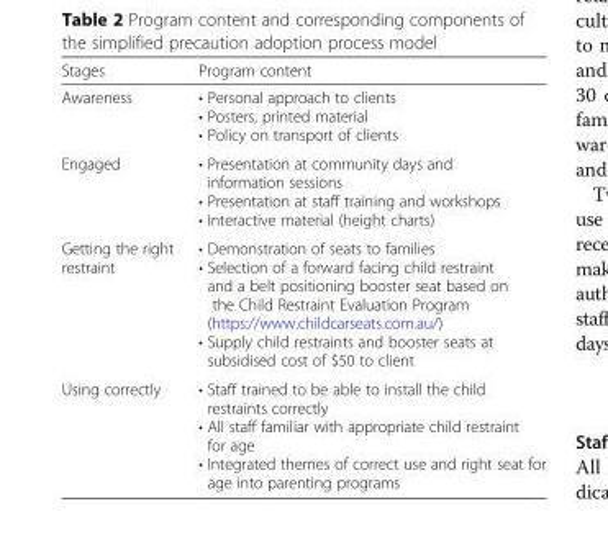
<table><thead><tr><td>Stages</td><td>Program content</td></tr></thead><tbody><tr><td>Awareness</td><td>• Personal approach to clients • Posters, printed material • Policy on transport of clients</td></tr><tr><td>Engaged</td><td>• Presentation at community days and information sessions • Presentation at staff training and workshops • Interactive material (height charts)</td></tr><tr><td>Getting the right restraint</td><td>• Demonstration of seats to families • Selection of a forward facing child restraint and a belt positioning booster seat based on the Child Restraint Evaluation Program (https://www.childcarseats.com.au/) • Supply child restraints and booster seats at subsidised cost of $50 to client</td></tr><tr><td>Using correctly</td><td>• Staff trained to be able to install the child restraints correctly • All staff familiar with appropriate child restraint for age • Integrated themes of correct use and right seat for age into parenting programs</td></tr></tbody></table>